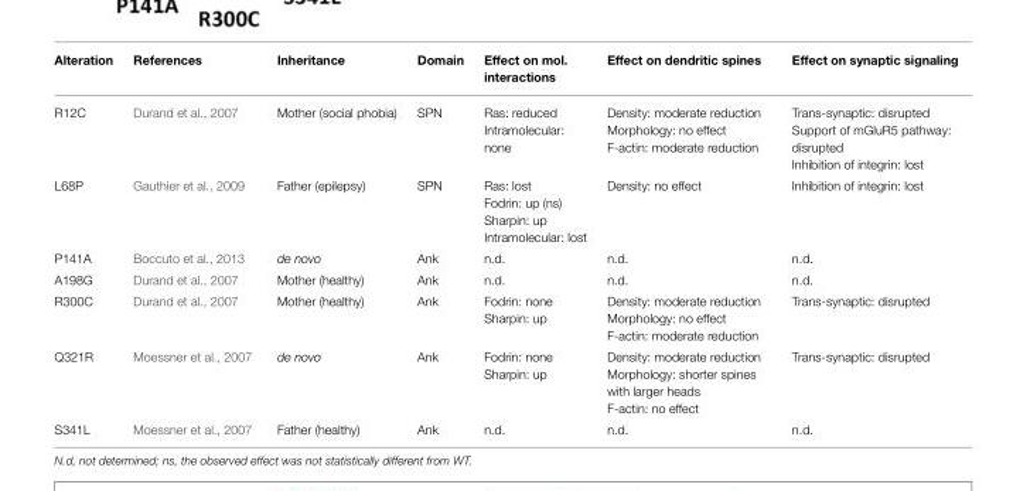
<table><thead><tr><td>Alteration</td><td>References</td><td>Inheritance</td><td>Domain</td><td>Effect on mol. interactions</td><td>Effect on dendritic spines</td><td>Effect on synaptic signaling</td></tr></thead><tbody><tr><td>R12C</td><td>Durand et al., 2007</td><td>Mother (social phobia)</td><td>SPN</td><td>Ras: reduced Intramolecular: none</td><td>Density: moderate reduction Morphology: no effect F-actin: moderate reduction</td><td>Trans-synaptic: disrupted Support of mGluR5 pathway: disrupted Inhibition of integrin: lost</td></tr><tr><td>L68P</td><td>Gauthier et al., 2009</td><td>Father (epilepsy)</td><td>SPN</td><td>Ras: lost Fodrin: up (ns) Sharpin: up Intramolecular: lost</td><td>Density: no effect</td><td>Inhibition of integrin: lost</td></tr><tr><td>P141A</td><td>Boccuto et al., 2013</td><td>de novo</td><td>Ank</td><td>n.d.</td><td>n.d.</td><td>n.d.</td></tr><tr><td>A198G</td><td>Durand et al., 2007</td><td>Mother (healthy)</td><td>Ank</td><td>n.d.</td><td>n.d.</td><td>n.d.</td></tr><tr><td>R300C</td><td>Durand et al., 2007</td><td>Mother (healthy)</td><td>Ank</td><td>Fodrin: none Sharpin: up</td><td>Density: moderate reduction Morphology: no effect F-actin: moderate reduction</td><td>Trans-synaptic: disrupted</td></tr><tr><td>Q321R</td><td>Moessner et al., 2007</td><td>de novo</td><td>Ank</td><td>Fodrin: none Sharpin: up</td><td>Density: moderate reduction Morphology: shorter spines with larger heads F-actin: no effect</td><td>Trans-synaptic: disrupted</td></tr><tr><td>S341L</td><td>Moessner et al., 2007</td><td>Father (healthy)</td><td>Ank</td><td>n.d.</td><td>n.d.</td><td>n.d.</td></tr></tbody></table>